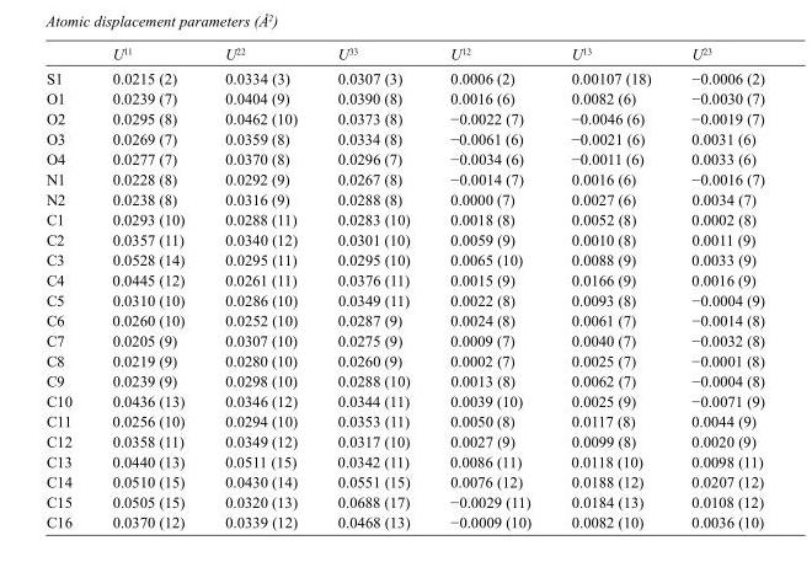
<table><thead><tr><td></td><td>U<sup>11</sup></td><td>U<sup>22</sup></td><td>U<sup>33</sup></td><td>U<sup>12</sup></td><td>U<sup>13</sup></td><td>U<sup>23</sup></td></tr></thead><tbody><tr><td>S1</td><td>0.0215 (2)</td><td>0.0334 (3)</td><td>0.0307 (3)</td><td>0.0006 (2)</td><td>0.00107 (18)</td><td>−0.0006 (2)</td></tr><tr><td>O1</td><td>0.0239 (7)</td><td>0.0404 (9)</td><td>0.0390 (8)</td><td>0.0016 (6)</td><td>0.0082 (6)</td><td>−0.0030 (7)</td></tr><tr><td>O2</td><td>0.0295 (8)</td><td>0.0462 (10)</td><td>0.0373 (8)</td><td>−0.0022 (7)</td><td>−0.0046 (6)</td><td>−0.0019 (7)</td></tr><tr><td>O3</td><td>0.0269 (7)</td><td>0.0359 (8)</td><td>0.0334 (8)</td><td>−0.0061 (6)</td><td>−0.0021 (6)</td><td>0.0031 (6)</td></tr><tr><td>O4</td><td>0.0277 (7)</td><td>0.0370 (8)</td><td>0.0296 (7)</td><td>−0.0034 (6)</td><td>−0.0011 (6)</td><td>0.0033 (6)</td></tr><tr><td>N1</td><td>0.0228 (8)</td><td>0.0292 (9)</td><td>0.0267 (8)</td><td>−0.0014 (7)</td><td>0.0016 (6)</td><td>−0.0016 (7)</td></tr><tr><td>N2</td><td>0.0238 (8)</td><td>0.0316 (9)</td><td>0.0288 (8)</td><td>0.0000 (7)</td><td>0.0027 (6)</td><td>0.0034 (7)</td></tr><tr><td>C1</td><td>0.0293 (10)</td><td>0.0288 (11)</td><td>0.0283 (10)</td><td>0.0018 (8)</td><td>0.0052 (8)</td><td>0.0002 (8)</td></tr><tr><td>C2</td><td>0.0357 (11)</td><td>0.0340 (12)</td><td>0.0301 (10)</td><td>0.0059 (9)</td><td>0.0010 (8)</td><td>0.0011 (9)</td></tr><tr><td>C3</td><td>0.0528 (14)</td><td>0.0295 (11)</td><td>0.0295 (10)</td><td>0.0065 (10)</td><td>0.0088 (9)</td><td>0.0033 (9)</td></tr><tr><td>C4</td><td>0.0445 (12)</td><td>0.0261 (11)</td><td>0.0376 (11)</td><td>0.0015 (9)</td><td>0.0166 (9)</td><td>0.0016 (9)</td></tr><tr><td>C5</td><td>0.0310 (10)</td><td>0.0286 (10)</td><td>0.0349 (11)</td><td>0.0022 (8)</td><td>0.0093 (8)</td><td>−0.0004 (9)</td></tr><tr><td>C6</td><td>0.0260 (10)</td><td>0.0252 (10)</td><td>0.0287 (9)</td><td>0.0024 (8)</td><td>0.0061 (7)</td><td>−0.0014 (8)</td></tr><tr><td>C7</td><td>0.0205 (9)</td><td>0.0307 (10)</td><td>0.0275 (9)</td><td>0.0009 (7)</td><td>0.0040 (7)</td><td>−0.0032 (8)</td></tr><tr><td>C8</td><td>0.0219 (9)</td><td>0.0280 (10)</td><td>0.0260 (9)</td><td>0.0002 (7)</td><td>0.0025 (7)</td><td>−0.0001 (8)</td></tr><tr><td>C9</td><td>0.0239 (9)</td><td>0.0298 (10)</td><td>0.0288 (10)</td><td>0.0013 (8)</td><td>0.0062 (7)</td><td>−0.0004 (8)</td></tr><tr><td>C10</td><td>0.0436 (13)</td><td>0.0346 (12)</td><td>0.0344 (11)</td><td>0.0039 (10)</td><td>0.0025 (9)</td><td>−0.0071 (9)</td></tr><tr><td>C11</td><td>0.0256 (10)</td><td>0.0294 (10)</td><td>0.0353 (11)</td><td>0.0050 (8)</td><td>0.0117 (8)</td><td>0.0044 (9)</td></tr><tr><td>C12</td><td>0.0358 (11)</td><td>0.0349 (12)</td><td>0.0317 (10)</td><td>0.0027 (9)</td><td>0.0099 (8)</td><td>0.0020 (9)</td></tr><tr><td>C13</td><td>0.0440 (13)</td><td>0.0511 (15)</td><td>0.0342 (11)</td><td>0.0086 (11)</td><td>0.0118 (10)</td><td>0.0098 (11)</td></tr><tr><td>C14</td><td>0.0510 (15)</td><td>0.0430 (14)</td><td>0.0551 (15)</td><td>0.0076 (12)</td><td>0.0188 (12)</td><td>0.0207 (12)</td></tr><tr><td>C15</td><td>0.0505 (15)</td><td>0.0320 (13)</td><td>0.0688 (17)</td><td>−0.0029 (11)</td><td>0.0184 (13)</td><td>0.0108 (12)</td></tr><tr><td>C16</td><td>0.0370 (12)</td><td>0.0339 (12)</td><td>0.0468 (13)</td><td>−0.0009 (10)</td><td>0.0082 (10)</td><td>0.0036 (10)</td></tr></tbody></table>